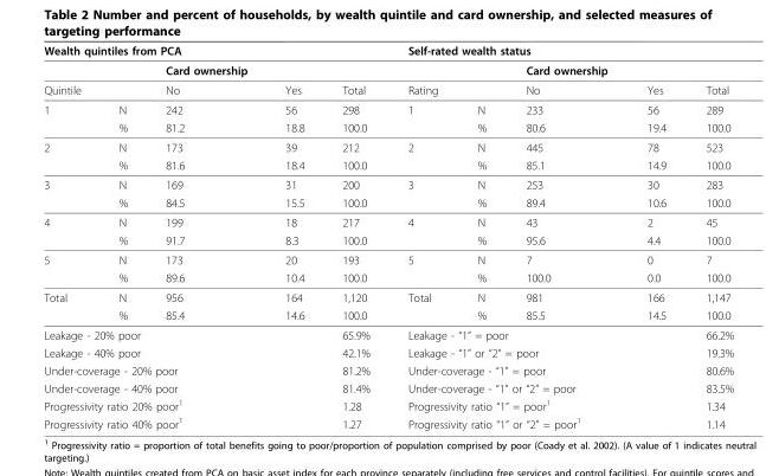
<table><thead><tr><td colspan="4">Wealth quintiles from PCA</td><td rowspan="2"></td><td colspan="4">Self-rated wealth status</td><td rowspan="2"></td></tr><tr><td></td><td></td><td>Card ownership</td><td></td><td></td><td></td><td>Card ownership</td><td></td></tr></thead><tbody><tr><td>Quintile</td><td></td><td>No</td><td>Yes</td><td>Total</td><td>Rating</td><td></td><td>No</td><td>Yes</td><td>Total</td></tr><tr><td rowspan="2">1</td><td>N</td><td>242</td><td>56</td><td>298</td><td>1</td><td>N</td><td>233</td><td>56</td><td>289</td></tr><tr><td>%</td><td>81.2</td><td>18.8</td><td>100.0</td><td></td><td>%</td><td>80.6</td><td>19.4</td><td>100.0</td></tr><tr><td rowspan="2">2</td><td>N</td><td>173</td><td>39</td><td>212</td><td>2</td><td>N</td><td>445</td><td>78</td><td>523</td></tr><tr><td>%</td><td>81.6</td><td>18.4</td><td>100.0</td><td></td><td>%</td><td>85.1</td><td>14.9</td><td>100.0</td></tr><tr><td rowspan="2">3</td><td>N</td><td>169</td><td>31</td><td>200</td><td>3</td><td>N</td><td>253</td><td>30</td><td>283</td></tr><tr><td>%</td><td>84.5</td><td>15.5</td><td>100.0</td><td></td><td>%</td><td>89.4</td><td>10.6</td><td>100.0</td></tr><tr><td rowspan="2">4</td><td>N</td><td>199</td><td>18</td><td>217</td><td>4</td><td>N</td><td>43</td><td>2</td><td>45</td></tr><tr><td>%</td><td>91.7</td><td>8.3</td><td>100.0</td><td></td><td>%</td><td>95.6</td><td>4.4</td><td>100.0</td></tr><tr><td rowspan="2">5</td><td>N</td><td>173</td><td>20</td><td>193</td><td>5</td><td>N</td><td>7</td><td>0</td><td>7</td></tr><tr><td>%</td><td>89.6</td><td>10.4</td><td>100.0</td><td></td><td>%</td><td>100.0</td><td>0.0</td><td>100.0</td></tr><tr><td rowspan="2">Total</td><td>N</td><td>956</td><td>164</td><td>1,120</td><td>Total</td><td>N</td><td>981</td><td>166</td><td>1,147</td></tr><tr><td>%</td><td>85.4</td><td>14.6</td><td>100.0</td><td></td><td>%</td><td>85.5</td><td>14.5</td><td>100.0</td></tr><tr><td colspan="3">Leakage - 20% poor</td><td></td><td>65.9%</td><td colspan="3">Leakage - “1” = poor</td><td></td><td>66.2%</td></tr><tr><td colspan="3">Leakage - 40% poor</td><td></td><td>42.1%</td><td colspan="4">Leakage - “1” or “2” = poor</td><td>19.3%</td></tr><tr><td colspan="4">Under-coverage - 20% poor</td><td>81.2%</td><td colspan="4">Under-coverage - “1” = poor</td><td>80.6%</td></tr><tr><td colspan="4">Under-coverage - 40% poor</td><td>81.4%</td><td colspan="4">Under-coverage - “1” or “2” = poor</td><td>83.5%</td></tr><tr><td colspan="4">Progressivity ratio 20% poor1</td><td>1.28</td><td colspan="4">Progressivity ratio “1” = poor1</td><td>1.34</td></tr><tr><td colspan="4">Progressivity ratio 40% poor1</td><td>1.27</td><td colspan="4">Progressivity ratio “1” or “2” = poor1</td><td>1.14</td></tr></tbody></table>